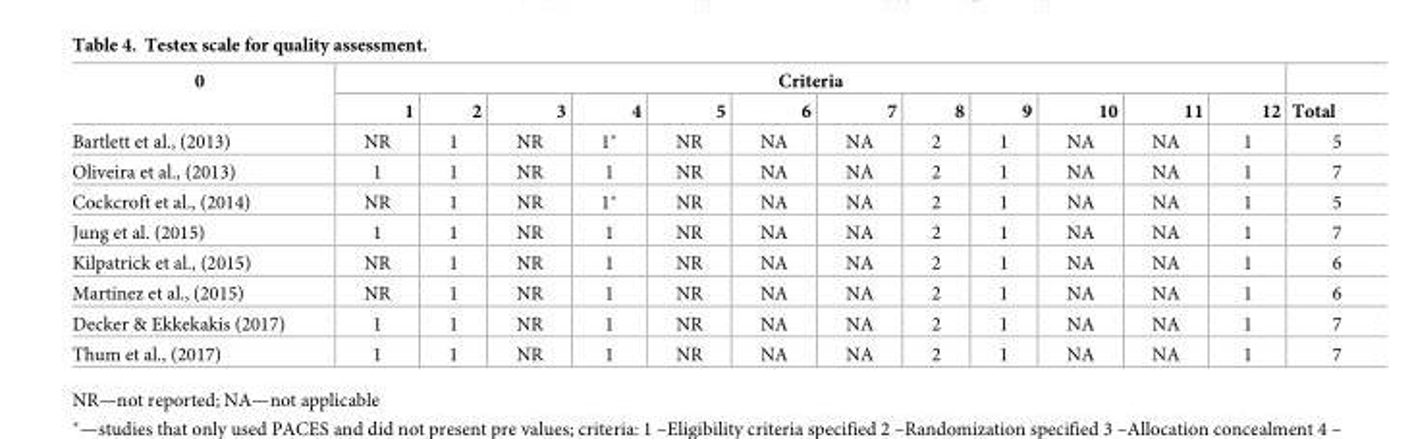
<table><thead><tr><td rowspan="2">0</td><td colspan="12">Criteria</td><td rowspan="2">Total</td></tr><tr><td>1</td><td>2</td><td>3</td><td>4</td><td>5</td><td>6</td><td>7</td><td>8</td><td>9</td><td>10</td><td>11</td><td>12</td></tr></thead><tbody><tr><td>Bartlett et al., (2013)</td><td>NR</td><td>1</td><td>NR</td><td>1*</td><td>NR</td><td>NA</td><td>NA</td><td>2</td><td>1</td><td>NA</td><td>NA</td><td>1</td><td>5</td></tr><tr><td>Oliveira et al., (2013)</td><td>1</td><td>1</td><td>NR</td><td>1</td><td>NR</td><td>NA</td><td>NA</td><td>2</td><td>1</td><td>NA</td><td>NA</td><td>1</td><td>7</td></tr><tr><td>Cockcroft et al., (2014)</td><td>NR</td><td>1</td><td>NR</td><td>1*</td><td>NR</td><td>NA</td><td>NA</td><td>2</td><td>1</td><td>NA</td><td>NA</td><td>1</td><td>5</td></tr><tr><td>Jung et al. (2015)</td><td>1</td><td>1</td><td>NR</td><td>1</td><td>NR</td><td>NA</td><td>NA</td><td>2</td><td>1</td><td>NA</td><td>NA</td><td>1</td><td>7</td></tr><tr><td>Kilpatrick et al., (2015)</td><td>NR</td><td>1</td><td>NR</td><td>1</td><td>NR</td><td>NA</td><td>NA</td><td>2</td><td>1</td><td>NA</td><td>NA</td><td>1</td><td>6</td></tr><tr><td>Martinez et al., (2015)</td><td>NR</td><td>1</td><td>NR</td><td>1</td><td>NR</td><td>NA</td><td>NA</td><td>2</td><td>1</td><td>NA</td><td>NA</td><td>1</td><td>6</td></tr><tr><td>Decker &amp; Ekkekakis (2017)</td><td>1</td><td>1</td><td>NR</td><td>1</td><td>NR</td><td>NA</td><td>NA</td><td>2</td><td>1</td><td>NA</td><td>NA</td><td>1</td><td>7</td></tr><tr><td>Thum et al., (2017)</td><td>1</td><td>1</td><td>NR</td><td>1</td><td>NR</td><td>NA</td><td>NA</td><td>2</td><td>1</td><td>NA</td><td>NA</td><td>1</td><td>7</td></tr></tbody></table>